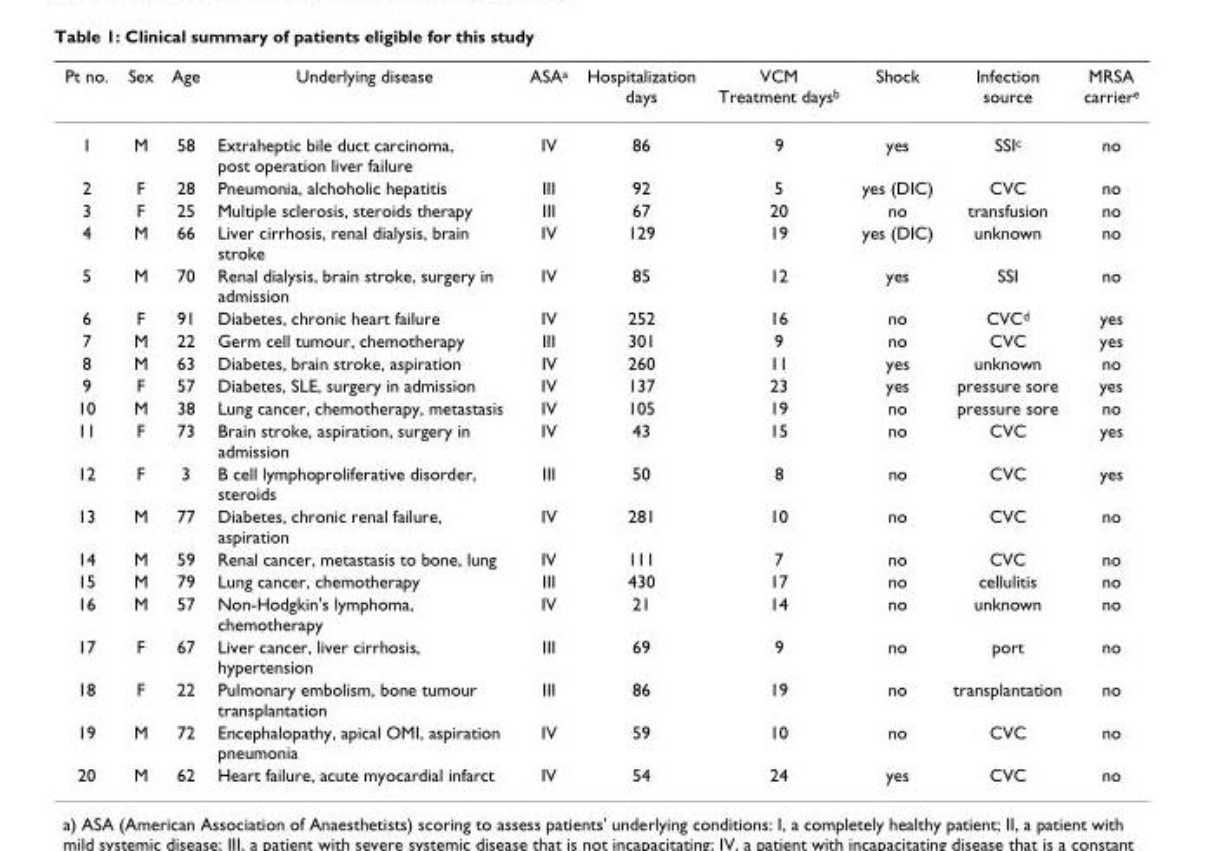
<table><thead><tr><td>Pt no.</td><td>Sex</td><td>Age</td><td>Underlying disease</td><td>ASA<sup>a</sup></td><td>Hospitalization days</td><td>VCM Treatment days<sup>b</sup></td><td>Shock</td><td>Infection source</td><td>MRSA carrier<sup>e</sup></td></tr></thead><tbody><tr><td>1</td><td>M</td><td>58</td><td>Extraheptic bile duct carcinoma, post operation liver failure</td><td>IV</td><td>86</td><td>9</td><td>yes</td><td>SSI<sup>c</sup></td><td>no</td></tr><tr><td>2</td><td>F</td><td>28</td><td>Pneumonia, alchoholic hepatitis</td><td>III</td><td>92</td><td>5</td><td>yes (DIC)</td><td>CVC</td><td>no</td></tr><tr><td>3</td><td>F</td><td>25</td><td>Multiple sclerosis, steroids therapy</td><td>III</td><td>67</td><td>20</td><td>no</td><td>transfusion</td><td>no</td></tr><tr><td>4</td><td>M</td><td>66</td><td>Liver cirrhosis, renal dialysis, brain stroke</td><td>IV</td><td>129</td><td>19</td><td>yes (DIC)</td><td>unknown</td><td>no</td></tr><tr><td>5</td><td>M</td><td>70</td><td>Renal dialysis, brain stroke, surgery in admission</td><td>IV</td><td>85</td><td>12</td><td>yes</td><td>SSI</td><td>no</td></tr><tr><td>6</td><td>F</td><td>91</td><td>Diabetes, chronic heart failure</td><td>IV</td><td>252</td><td>16</td><td>no</td><td>CVC<sup>d</sup></td><td>yes</td></tr><tr><td>7</td><td>M</td><td>22</td><td>Germ cell tumour, chemotherapy</td><td>III</td><td>301</td><td>9</td><td>no</td><td>CVC</td><td>yes</td></tr><tr><td>8</td><td>M</td><td>63</td><td>Diabetes, brain stroke, aspiration</td><td>IV</td><td>260</td><td>11</td><td>yes</td><td>unknown</td><td>no</td></tr><tr><td>9</td><td>F</td><td>57</td><td>Diabetes, SLE, surgery in admission</td><td>IV</td><td>137</td><td>23</td><td>yes</td><td>pressure sore</td><td>yes</td></tr><tr><td>10</td><td>M</td><td>38</td><td>Lung cancer, chemotherapy, metastasis</td><td>IV</td><td>105</td><td>19</td><td>no</td><td>pressure sore</td><td>no</td></tr><tr><td>11</td><td>F</td><td>73</td><td>Brain stroke, aspiration, surgery in admission</td><td>IV</td><td>43</td><td>15</td><td>no</td><td>CVC</td><td>yes</td></tr><tr><td>12</td><td>F</td><td>3</td><td>B cell lymphoproliferative disorder, steroids</td><td>III</td><td>50</td><td>8</td><td>no</td><td>CVC</td><td>yes</td></tr><tr><td>13</td><td>M</td><td>77</td><td>Diabetes, chronic renal failure, aspiration</td><td>IV</td><td>281</td><td>10</td><td>no</td><td>CVC</td><td>no</td></tr><tr><td>14</td><td>M</td><td>59</td><td>Renal cancer, metastasis to bone, lung</td><td>IV</td><td>111</td><td>7</td><td>no</td><td>CVC</td><td>no</td></tr><tr><td>15</td><td>M</td><td>79</td><td>Lung cancer, chemotherapy</td><td>III</td><td>430</td><td>17</td><td>no</td><td>cellulitis</td><td>no</td></tr><tr><td>16</td><td>M</td><td>57</td><td>Non-Hodgkin&#x27;s lymphoma, chemotherapy</td><td>IV</td><td>21</td><td>14</td><td>no</td><td>unknown</td><td>no</td></tr><tr><td>17</td><td>F</td><td>67</td><td>Liver cancer, liver cirrhosis, hypertension</td><td>III</td><td>69</td><td>9</td><td>no</td><td>port</td><td>no</td></tr><tr><td>18</td><td>F</td><td>22</td><td>Pulmonary embolism, bone tumour transplantation</td><td>III</td><td>86</td><td>19</td><td>no</td><td>transplantation</td><td>no</td></tr><tr><td>19</td><td>M</td><td>72</td><td>Encephalopathy, apical OMI, aspiration pneumonia</td><td>IV</td><td>59</td><td>10</td><td>no</td><td>CVC</td><td>no</td></tr><tr><td>20</td><td>M</td><td>62</td><td>Heart failure, acute myocardial infarct</td><td>IV</td><td>54</td><td>24</td><td>yes</td><td>CVC</td><td>no</td></tr></tbody></table>